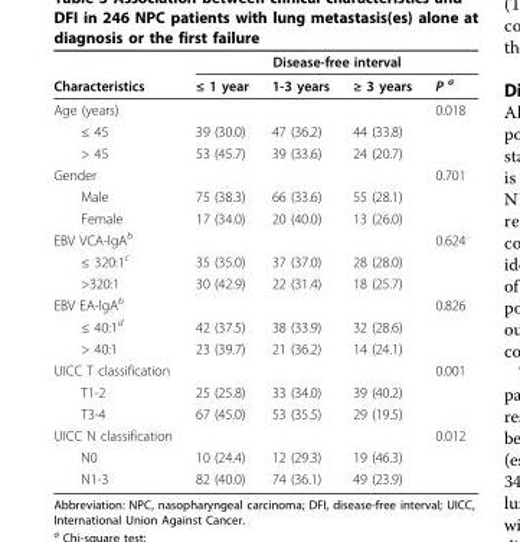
<table><thead><tr><td rowspan="2">Characteristics</td><td colspan="4">Disease-free interval</td></tr><tr><td>≤ 1 year</td><td>1-3 years</td><td>≥ 3 years</td><td>P <sup>a</sup></td></tr></thead><tbody><tr><td>Age (years)</td><td></td><td></td><td></td><td>0.018</td></tr><tr><td>≤ 45</td><td>39 (30.0)</td><td>47 (36.2)</td><td>44 (33.8)</td><td></td></tr><tr><td>&gt; 45</td><td>53 (45.7)</td><td>39 (33.6)</td><td>24 (20.7)</td><td></td></tr><tr><td>Gender</td><td></td><td></td><td></td><td>0.701</td></tr><tr><td>Male</td><td>75 (38.3)</td><td>66 (33.6)</td><td>55 (28.1)</td><td></td></tr><tr><td>Female</td><td>17 (34.0)</td><td>20 (40.0)</td><td>13 (26.0)</td><td></td></tr><tr><td>EBV VCA-lgA<sup>b</sup></td><td></td><td></td><td></td><td>0.624</td></tr><tr><td>≤ 320:1<sup>c</sup></td><td>35 (35.0)</td><td>37 (37.0)</td><td>28 (28.0)</td><td></td></tr><tr><td>&gt;320:1</td><td>30 (42.9)</td><td>22 (31.4)</td><td>18 (25.7)</td><td></td></tr><tr><td>EBV EA-lgA<sup>b</sup></td><td></td><td></td><td></td><td>0.826</td></tr><tr><td>≤ 40:1<sup>d</sup></td><td>42 (37.5)</td><td>38 (33.9)</td><td>32 (28.6)</td><td></td></tr><tr><td>&gt; 40:1</td><td>23 (39.7)</td><td>21 (36.2)</td><td>14 (24.1)</td><td></td></tr><tr><td>UICC T classification</td><td></td><td></td><td></td><td>0.001</td></tr><tr><td>T1-2</td><td>25 (25.8)</td><td>33 (34.0)</td><td>39 (40.2)</td><td></td></tr><tr><td>T3-4</td><td>67 (45.0)</td><td>53 (35.5)</td><td>29 (19.5)</td><td></td></tr><tr><td>UICC N classification</td><td></td><td></td><td></td><td>0.012</td></tr><tr><td>N0</td><td>10 (24.4)</td><td>12 (29.3)</td><td>19 (46.3)</td><td></td></tr><tr><td>N1-3</td><td>82 (40.0)</td><td>74 (36.1)</td><td>49 (23.9)</td><td></td></tr></tbody></table>